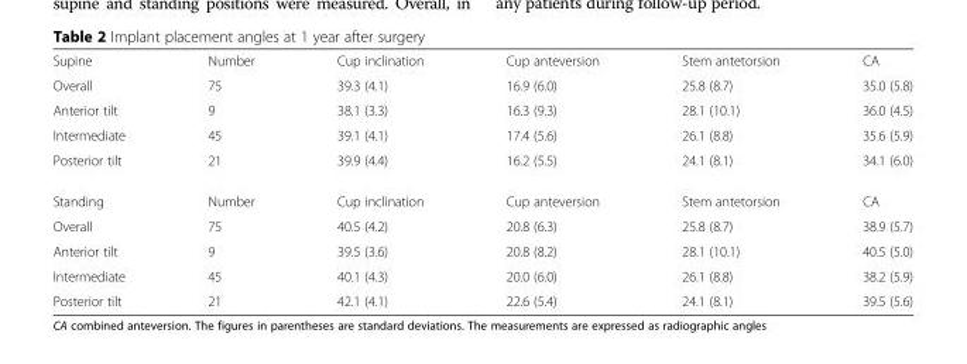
<table><tbody><tr><td>Supine</td><td>Number</td><td>Cup inclination</td><td>Cup anteversion</td><td>Stem antetorsion</td><td>CA</td></tr><tr><td>Overall</td><td>75</td><td>39.3 (4.1)</td><td>16.9 (6.0)</td><td>25.8 (8.7)</td><td>35.0 (5.8)</td></tr><tr><td>Anterior tilt</td><td>9</td><td>38.1 (3.3)</td><td>16.3 (9.3)</td><td>28.1 (10.1)</td><td>36.0 (4.5)</td></tr><tr><td>Intermediate</td><td>45</td><td>39.1 (4.1)</td><td>17.4 (5.6)</td><td>26.1 (8.8)</td><td>35.6 (5.9)</td></tr><tr><td>Posterior tilt</td><td>21</td><td>39.9 (4.4)</td><td>16.2 (5.5)</td><td>24.1 (8.1)</td><td>34.1 (6.0)</td></tr><tr><td>Standing</td><td>Number</td><td>Cup inclination</td><td>Cup anteversion</td><td>Stem antetorsion</td><td>CA</td></tr><tr><td>Overall</td><td>75</td><td>40.5 (4.2)</td><td>20.8 (6.3)</td><td>25.8 (8.7)</td><td>38.9 (5.7)</td></tr><tr><td>Anterior tilt</td><td>9</td><td>39.5 (3.6)</td><td>20.8 (8.2)</td><td>28.1 (10.1)</td><td>40.5 (5.0)</td></tr><tr><td>Intermediate</td><td>45</td><td>40.1 (4.3)</td><td>20.0 (6.0)</td><td>26.1 (8.8)</td><td>38.2 (5.9)</td></tr><tr><td>Posterior tilt</td><td>21</td><td>42.1 (4.1)</td><td>22.6 (5.4)</td><td>24.1 (8.1)</td><td>39.5 (5.6)</td></tr></tbody></table>